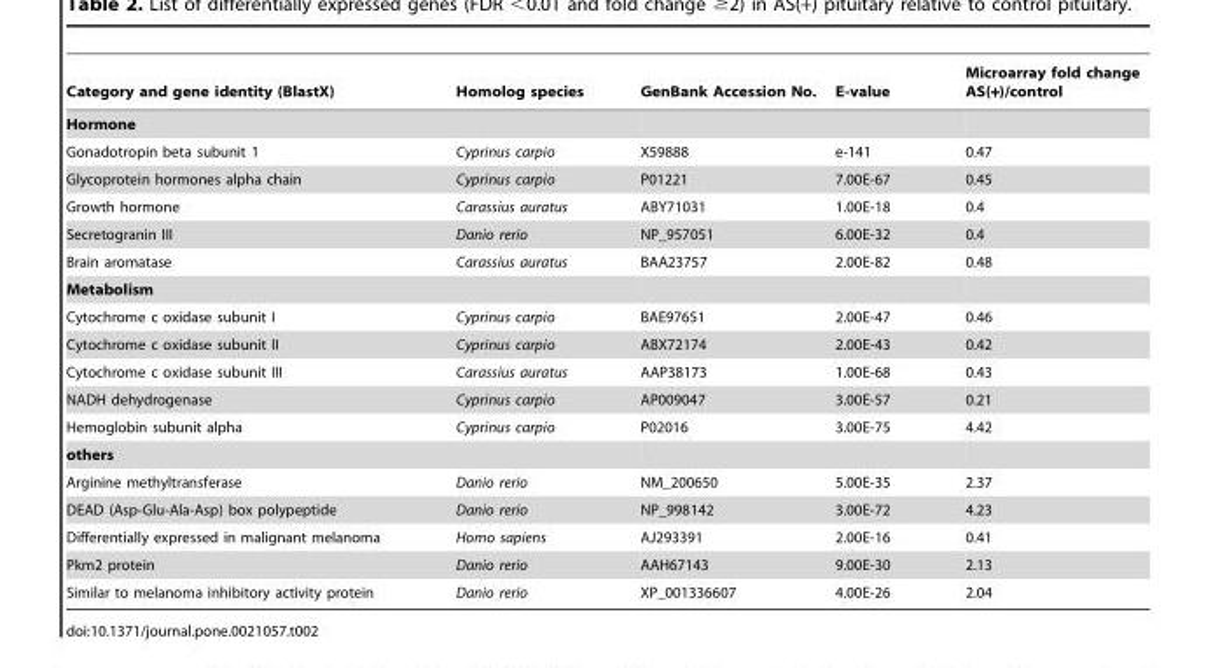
<table><thead><tr><td>Category and gene identity (BlastX)</td><td>Homolog species</td><td>GenBank Accession No.</td><td>E-value</td><td>Microarray fold change AS(+)/control</td></tr></thead><tbody><tr><td colspan="5">Hormone</td></tr><tr><td>Gonadotropin beta subunit 1</td><td>Cyprinus carpio</td><td>X59888</td><td>e-141</td><td>0.47</td></tr><tr><td>Glycoprotein hormones alpha chain</td><td>Cyprinus carpio</td><td>P01221</td><td>7.00E-67</td><td>0.45</td></tr><tr><td>Growth hormone</td><td>Carassius auratus</td><td>ABY71031</td><td>1.00E-18</td><td>0.4</td></tr><tr><td>Secretogranin III</td><td>Danio rerio</td><td>NP_957051</td><td>6.00E-32</td><td>0.4</td></tr><tr><td>Brain aromatase</td><td>Carassius auratus</td><td>BAA23757</td><td>2.00E-82</td><td>0.48</td></tr><tr><td colspan="5">Metabolism</td></tr><tr><td>Cytochrome c oxidase subunit I</td><td>Cyprinus carpio</td><td>BAE97651</td><td>2.00E-47</td><td>0.46</td></tr><tr><td>Cytochrome c oxidase subunit II</td><td>Cyprinus carpio</td><td>ABX72174</td><td>2.00E-43</td><td>0.42</td></tr><tr><td>Cytochrome c oxidase subunit III</td><td>Carassius auratus</td><td>AAP38173</td><td>1.00E-68</td><td>0.43</td></tr><tr><td>NADH dehydrogenase</td><td>Cyprinus carpio</td><td>AP009047</td><td>3.00E-57</td><td>0.21</td></tr><tr><td>Hemoglobin subunit alpha</td><td>Cyprinus carpio</td><td>P02016</td><td>3.00E-75</td><td>4.42</td></tr><tr><td colspan="5">others</td></tr><tr><td>Arginine methyltransferase</td><td>Danio rerio</td><td>NM_200650</td><td>5.00E-35</td><td>2.37</td></tr><tr><td>DEAD (Asp-Glu-Ala-Asp) box polypeptide</td><td>Danio rerio</td><td>NP_998142</td><td>3.00E-72</td><td>4.23</td></tr><tr><td>Differentially expressed in malignant melanoma</td><td>Homo sapiens</td><td>AJ293391</td><td>2.00E-16</td><td>0.41</td></tr><tr><td>Pkm2 protein</td><td>Danio rerio</td><td>AAH67143</td><td>9.00E-30</td><td>2.13</td></tr><tr><td>Similar to melanoma inhibitory activity protein</td><td>Danio rerio</td><td>XP_001336607</td><td>4.00E-26</td><td>2.04</td></tr></tbody></table>